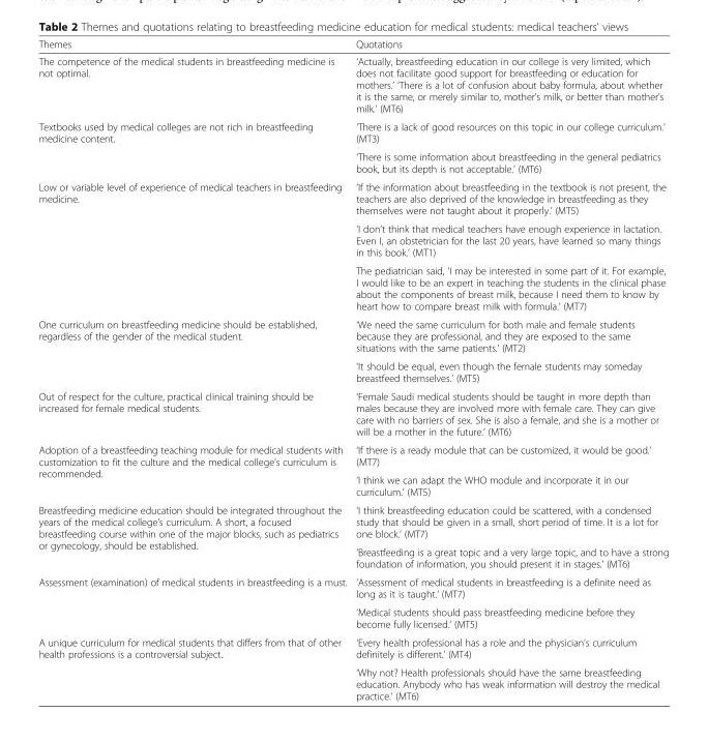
<table><thead><tr><td>Themes</td><td>Quotations</td></tr></thead><tbody><tr><td>The competence of the medical students in breastfeeding medicine is not optimal.</td><td>‘Actually, breastfeeding education in our college is very limited, which does not facilitate good support for breastfeeding or education for mothers.’ ‘There is a lot of confusion about baby formula, about whether it is the same, or merely similar to, mother’s milk, or better than mother’s milk.’ (MT6)</td></tr><tr><td rowspan="2">Textbooks used by medical colleges are not rich in breastfeeding medicine content.</td><td>‘There is a lack of good resources on this topic in our college curriculum.’ (MT3)</td></tr><tr><td>‘There is some information about breastfeeding in the general pediatrics book, but its depth is not acceptable.’ (MT6)</td></tr><tr><td rowspan="3">Low or variable level of experience of medical teachers in breastfeeding medicine.</td><td>‘If the information about breastfeeding in the textbook is not present, the teachers are also deprived of the knowledge in breastfeeding as they themselves were not taught about it properly.’ (MT5)</td></tr><tr><td>‘I don’t think that medical teachers have enough experience in lactation. Even I, an obstetrician for the last 20 years, have learned so many things in this book.’ (MT1)</td></tr><tr><td>The pediatrician said, ‘I may be interested in some part of it. For example, I would like to be an expert in teaching the students in the clinical phase about the components of breast milk, because I need them to know by heart how to compare breast milk with formula.’ (MT7)</td></tr><tr><td rowspan="2">One curriculum on breastfeeding medicine should be established, regardless of the gender of the medical student.</td><td>‘We need the same curriculum for both male and female students because they are professional, and they are exposed to the same situations with the same patients.’ (MT2)</td></tr><tr><td>‘It should be equal, even though the female students may someday breastfeed themselves.’ (MT5)</td></tr><tr><td>Out of respect for the culture, practical clinical training should be increased for female medical students.</td><td>‘Female Saudi medical students should be taught in more depth than males because they are involved more with female care. They can give care with no barriers of sex. She is also a female, and she is a mother or will be a mother in the future.’ (MT6)</td></tr><tr><td rowspan="2">Adoption of a breastfeeding teaching module for medical students with customization to fit the culture and the medical college’s curriculum is recommended.</td><td>‘If there is a ready module that can be customized, it would be good.’ (MT7)</td></tr><tr><td>‘I think we can adapt the WHO module and incorporate it in our curriculum.’ (MT5)</td></tr><tr><td rowspan="2">Breastfeeding medicine education should be integrated throughout the years of the medical college’s curriculum. A short, a focused breastfeeding course within one of the major blocks, such as pediatrics or gynecology, should be established.</td><td>‘I think breastfeeding education could be scattered, with a condensed study that should be given in a small, short period of time. It is a lot for one block.’ (MT7)</td></tr><tr><td>‘Breastfeeding is a great topic and a very large topic, and to have a strong foundation of information, you should present it in stages.’ (MT6)</td></tr><tr><td rowspan="2">Assessment (examination) of medical students in breastfeeding is a must.</td><td>‘Assessment of medical students in breastfeeding is a definite need as long as it is taught.’ (MT7)</td></tr><tr><td>‘Medical students should pass breastfeeding medicine before they become fully licensed.’ (MT5)</td></tr><tr><td rowspan="2">A unique curriculum for medical students that differs from that of other health professions is a controversial subject.</td><td>‘Every health professional has a role and the physician’s curriculum definitely is different.’ (MT4)</td></tr><tr><td>‘Why not? Health professionals should have the same breastfeeding education. Anybody who has weak information will destroy the medical practice.’ (MT6)</td></tr></tbody></table>